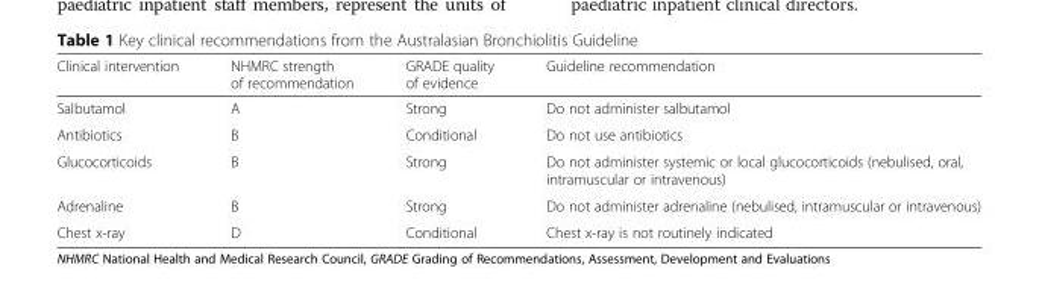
<table><thead><tr><td>Clinical intervention</td><td>NHMRC strength of recommendation</td><td>GRADE quality of evidence</td><td>Guideline recommendation</td></tr></thead><tbody><tr><td>Salbutamol</td><td>A</td><td>Strong</td><td>Do not administer salbutamol</td></tr><tr><td>Antibiotics</td><td>B</td><td>Conditional</td><td>Do not use antibiotics</td></tr><tr><td>Glucocorticoids</td><td>B</td><td>Strong</td><td>Do not administer systemic or local glucocorticoids (nebulised, oral, intramuscular or intravenous)</td></tr><tr><td>Adrenaline</td><td>B</td><td>Strong</td><td>Do not administer adrenaline (nebulised, intramuscular or intravenous)</td></tr><tr><td>Chest x-ray</td><td>D</td><td>Conditional</td><td>Chest x-ray is not routinely indicated</td></tr></tbody></table>